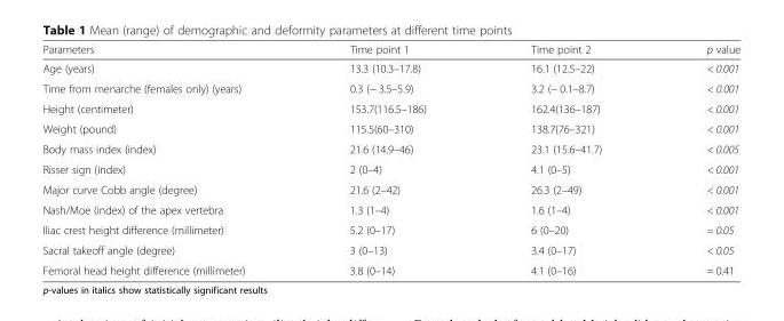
<table><thead><tr><td>Parameters</td><td>Time point 1</td><td>Time point 2</td><td>p value</td></tr></thead><tbody><tr><td>Age (years)</td><td>13.3 (10.3–17.8)</td><td>16.1 (12.5–22)</td><td>&lt; 0.001</td></tr><tr><td>Time from menarche (females only) (years)</td><td>0.3 (− 3.5–5.9)</td><td>3.2 (− 0.1–8.7)</td><td>&lt; 0.001</td></tr><tr><td>Height (centimeter)</td><td>153.7(116.5–186)</td><td>162.4(136–187)</td><td>&lt; 0.001</td></tr><tr><td>Weight (pound)</td><td>115.5(60–310)</td><td>138.7(76–321)</td><td>&lt; 0.001</td></tr><tr><td>Body mass index (index)</td><td>21.6 (14.9–46)</td><td>23.1 (15.6–41.7)</td><td>&lt; 0.005</td></tr><tr><td>Risser sign (index)</td><td>2 (0–4)</td><td>4.1 (0–5)</td><td>&lt; 0.001</td></tr><tr><td>Major curve Cobb angle (degree)</td><td>21.6 (2–42)</td><td>26.3 (2–49)</td><td>&lt; 0.001</td></tr><tr><td>Nash/Moe (index) of the apex vertebra</td><td>1.3 (1–4)</td><td>1.6 (1–4)</td><td>&lt; 0.001</td></tr><tr><td>Iliac crest height difference (millimeter)</td><td>5.2 (0–17)</td><td>6 (0–20)</td><td>= 0.05</td></tr><tr><td>Sacral takeoff angle (degree)</td><td>3 (0–13)</td><td>3.4 (0–17)</td><td>&lt; 0.05</td></tr><tr><td>Femoral head height difference (millimeter)</td><td>3.8 (0–14)</td><td>4.1 (0–16)</td><td>= 0.41</td></tr></tbody></table>